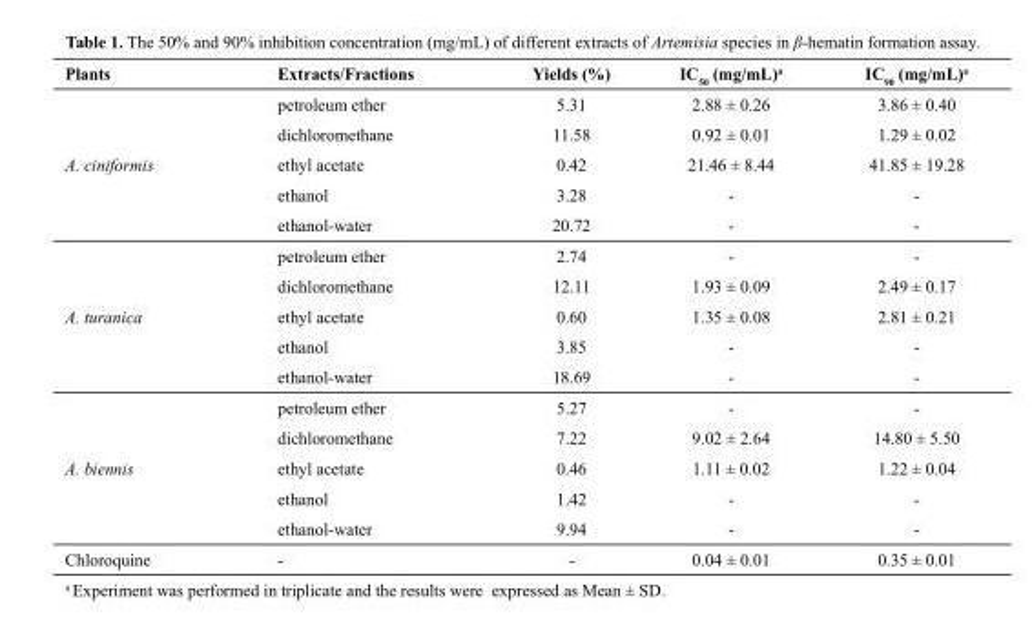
<table><thead><tr><td>IC<sub>90</sub> (mg/mL)a</td><td>IC<sub>50</sub> (mg/mL)a</td><td>Yields (%)</td><td>Extracts/Fractions</td><td>Plants</td></tr></thead><tbody><tr><td>3.86 ± 0.40</td><td>2.88 ± 0.26</td><td>5.31</td><td>petroleum ether</td><td rowspan="5">A. ciniformis</td></tr><tr><td>1.29 ± 0.02</td><td>0.92 ± 0.01</td><td>11.58</td><td>dichloromethane</td></tr><tr><td>41.85 ± 19.28</td><td>21.46 ± 8.44</td><td>0.42</td><td>ethyl acetate</td></tr><tr><td>-</td><td>-</td><td>3.28</td><td>ethanol</td></tr><tr><td>-</td><td>-</td><td>20.72</td><td>ethanol-water</td></tr><tr><td>-</td><td>-</td><td>2.74</td><td>petroleum ether</td><td rowspan="5">A. turanica</td></tr><tr><td>2.49 ± 0.17</td><td>1.93 ± 0.09</td><td>12.11</td><td>dichloromethane</td></tr><tr><td>2.81 ± 0.21</td><td>1.35 ± 0.08</td><td>0.60</td><td>ethyl acetate</td></tr><tr><td>-</td><td>-</td><td>3.85</td><td>ethanol</td></tr><tr><td>-</td><td>-</td><td>18.69</td><td>ethanol-water</td></tr><tr><td>-</td><td>-</td><td>5.27</td><td>petroleum ether</td><td rowspan="5">A. biennis</td></tr><tr><td>14.80 ± 5.50</td><td>9.02 ± 2.64</td><td>7.22</td><td>dichloromethane</td></tr><tr><td>1.22 ± 0.04</td><td>1.11 ± 0.02</td><td>0.46</td><td>ethyl acetate</td></tr><tr><td>-</td><td>-</td><td>1.42</td><td>ethanol</td></tr><tr><td>-</td><td>-</td><td>9.94</td><td>ethanol-water</td></tr><tr><td>0.35 ± 0.01</td><td>0.04 ± 0.01</td><td>-</td><td>-</td><td>Chloroquine</td></tr></tbody></table>